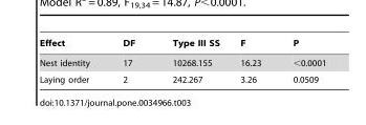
<table><thead><tr><td>Effect</td><td>DF</td><td>Type III SS</td><td>F</td><td>P</td></tr></thead><tbody><tr><td>Nest identity</td><td>17</td><td>10268.155</td><td>16.23</td><td>&lt;0.0001</td></tr><tr><td>Laying order</td><td>2</td><td>242.267</td><td>3.26</td><td>0.0509</td></tr></tbody></table>